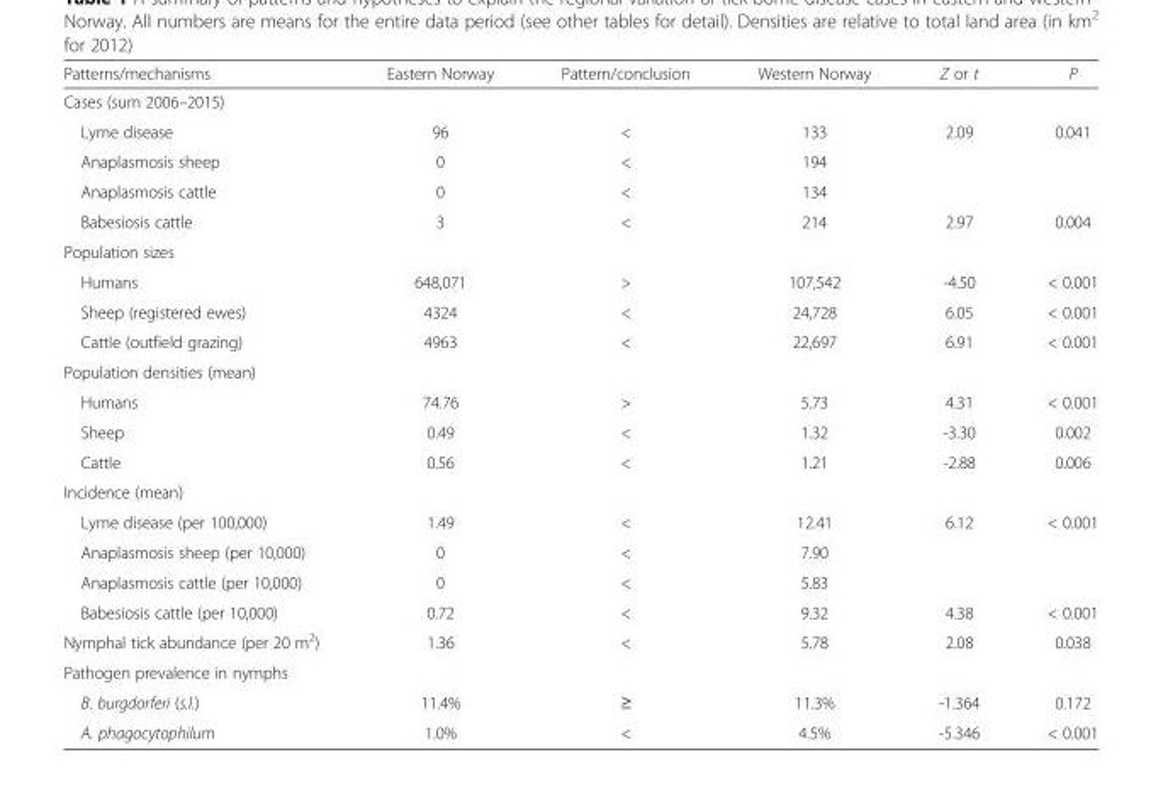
<table><thead><tr><td>Patterns/mechanisms</td><td>Eastern Norway</td><td>Pattern/conclusion</td><td>Western Norway</td><td>Z or t</td><td>P</td></tr></thead><tbody><tr><td colspan="6">Cases (sum 2006–2015)</td></tr><tr><td>Lyme disease</td><td>96</td><td>&lt;</td><td>133</td><td>2.09</td><td>0.041</td></tr><tr><td>Anaplasmosis sheep</td><td>0</td><td>&lt;</td><td>194</td><td></td><td></td></tr><tr><td>Anaplasmosis cattle</td><td>0</td><td>&lt;</td><td>134</td><td></td><td></td></tr><tr><td>Babesiosis cattle</td><td>3</td><td>&lt;</td><td>214</td><td>2.97</td><td>0.004</td></tr><tr><td colspan="6">Population sizes</td></tr><tr><td>Humans</td><td>648,071</td><td>&gt;</td><td>107,542</td><td>-4.50</td><td>&lt; 0.001</td></tr><tr><td>Sheep (registered ewes)</td><td>4324</td><td>&lt;</td><td>24,728</td><td>6.05</td><td>&lt; 0.001</td></tr><tr><td>Cattle (outfield grazing)</td><td>4963</td><td>&lt;</td><td>22,697</td><td>6.91</td><td>&lt; 0.001</td></tr><tr><td colspan="6">Population densities (mean)</td></tr><tr><td>Humans</td><td>74.76</td><td>&gt;</td><td>5.73</td><td>4.31</td><td>&lt; 0.001</td></tr><tr><td>Sheep</td><td>0.49</td><td>&lt;</td><td>1.32</td><td>-3.30</td><td>0.002</td></tr><tr><td>Cattle</td><td>0.56</td><td>&lt;</td><td>1.21</td><td>-2.88</td><td>0.006</td></tr><tr><td colspan="6">Incidence (mean)</td></tr><tr><td>Lyme disease (per 100,000)</td><td>1.49</td><td>&lt;</td><td>12.41</td><td>6.12</td><td>&lt; 0.001</td></tr><tr><td>Anaplasmosis sheep (per 10,000)</td><td>0</td><td>&lt;</td><td>7.90</td><td></td><td></td></tr><tr><td>Anaplasmosis cattle (per 10,000)</td><td>0</td><td>&lt;</td><td>5.83</td><td></td><td></td></tr><tr><td>Babesiosis cattle (per 10,000)</td><td>0.72</td><td>&lt;</td><td>9.32</td><td>4.38</td><td>&lt; 0.001</td></tr><tr><td>Nymphal tick abundance (per 20 m<sup>2</sup>)</td><td>1.36</td><td>&lt;</td><td>5.78</td><td>2.08</td><td>0.038</td></tr><tr><td colspan="6">Pathogen prevalence in nymphs</td></tr><tr><td>B. burgdorferi (s.l.)</td><td>11.4%</td><td>≥</td><td>11.3%</td><td>-1.364</td><td>0.172</td></tr><tr><td>A. phagocytophilum</td><td>1.0%</td><td>&lt;</td><td>4.5%</td><td>-5.346</td><td>&lt; 0.001</td></tr></tbody></table>